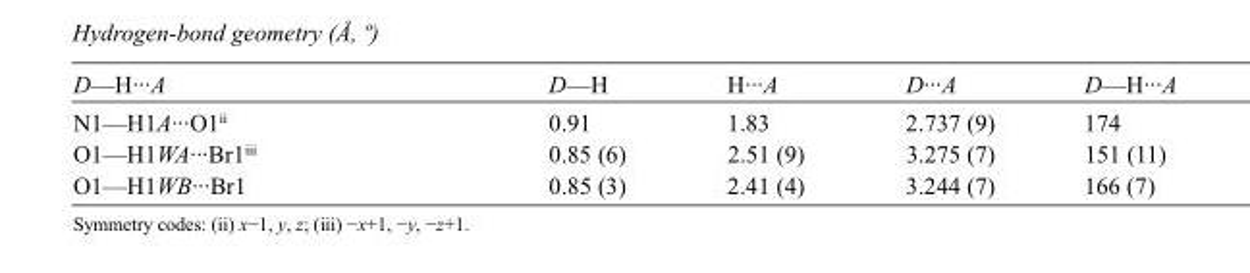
<table><tbody><tr><td>D—H···A</td><td>D—H</td><td>H···A</td><td>D···A</td><td>D—H···A</td></tr><tr><td>N1—H1A···O1<sup>ii</sup></td><td>0.91</td><td>1.83</td><td>2.737 (9)</td><td>174</td></tr><tr><td>O1—H1WA···Br1<sup>iii</sup></td><td>0.85 (6)</td><td>2.51 (9)</td><td>3.275 (7)</td><td>151 (11)</td></tr><tr><td>O1—H1WB···Br1</td><td>0.85 (3)</td><td>2.41 (4)</td><td>3.244 (7)</td><td>166 (7)</td></tr></tbody></table>